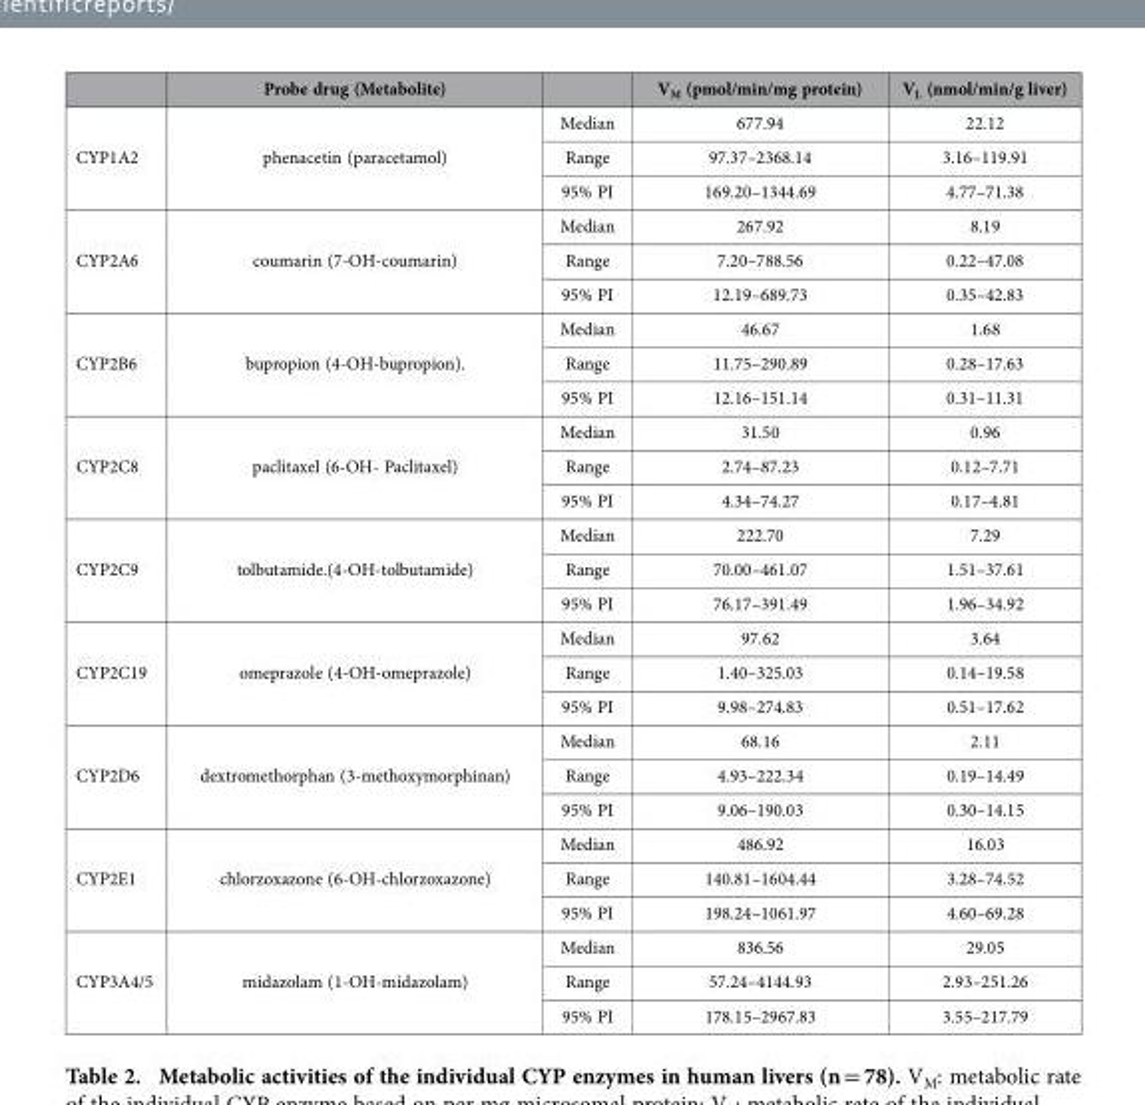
<table><thead><tr><td></td><td>Probe drug (Metabolite)</td><td></td><td>V<sub>M</sub> (pmol/min/mg protein)</td><td>V<sub>L</sub> (nmol/min/g liver)</td></tr></thead><tbody><tr><td rowspan="3">CYP1A2</td><td rowspan="3">phenacetin (paracetamol)</td><td>Median</td><td>677.94</td><td>22.12</td></tr><tr><td>Range</td><td>97.37–2368.14</td><td>3.16–119.91</td></tr><tr><td>95% PI</td><td>169.20–1344.69</td><td>4.77–71.38</td></tr><tr><td rowspan="3">CYP2A6</td><td rowspan="3">coumarin (7-OH-coumarin)</td><td>Median</td><td>267.92</td><td>8.19</td></tr><tr><td>Range</td><td>7.20–788.56</td><td>0.22–47.08</td></tr><tr><td>95% PI</td><td>12.19–689.73</td><td>0.35–42.83</td></tr><tr><td rowspan="3">CYP2B6</td><td rowspan="3">bupropion (4-OH-bupropion).</td><td>Median</td><td>46.67</td><td>1.68</td></tr><tr><td>Range</td><td>11.75–290.89</td><td>0.28–17.63</td></tr><tr><td>95% PI</td><td>12.16–151.14</td><td>0.31–11.31</td></tr><tr><td rowspan="3">CYP2C8</td><td rowspan="3">paclitaxel (6-OH- Paclitaxel)</td><td>Median</td><td>31.50</td><td>0.96</td></tr><tr><td>Range</td><td>2.74–87.23</td><td>0.12–7.71</td></tr><tr><td>95% PI</td><td>4.34–74.27</td><td>0.17–4.81</td></tr><tr><td rowspan="3">CYP2C9</td><td rowspan="3">tolbutamide.(4-OH-tolbutamide)</td><td>Median</td><td>222.70</td><td>7.29</td></tr><tr><td>Range</td><td>70.00–461.07</td><td>1.51–37.61</td></tr><tr><td>95% PI</td><td>76.17–391.49</td><td>1.96–34.92</td></tr><tr><td rowspan="3">CYP2C19</td><td rowspan="3">omeprazole (4-OH-omeprazole)</td><td>Median</td><td>97.62</td><td>3.64</td></tr><tr><td>Range</td><td>1.40–325.03</td><td>0.14–19.58</td></tr><tr><td>95% PI</td><td>9.98–274.83</td><td>0.51–17.62</td></tr><tr><td rowspan="3">CYP2D6</td><td rowspan="3">dextromethorphan (3-methoxymorphinan)</td><td>Median</td><td>68.16</td><td>2.11</td></tr><tr><td>Range</td><td>4.93–222.34</td><td>0.19–14.49</td></tr><tr><td>95% PI</td><td>9.06–190.03</td><td>0.30–14.15</td></tr><tr><td rowspan="3">CYP2E1</td><td rowspan="3">chlorzoxazone (6-OH-chlorzoxazone)</td><td>Median</td><td>486.92</td><td>16.03</td></tr><tr><td>Range</td><td>140.81–1604.44</td><td>3.28–74.52</td></tr><tr><td>95% PI</td><td>198.24–1061.97</td><td>4.60–69.28</td></tr><tr><td rowspan="3">CYP3A4/5</td><td rowspan="3">midazolam (1-OH-midazolam)</td><td>Median</td><td>836.56</td><td>29.05</td></tr><tr><td>Range</td><td>57.24–4144.93</td><td>2.93–251.26</td></tr><tr><td>95% PI</td><td>178.15–2967.83</td><td>3.55–217.79</td></tr></tbody></table>